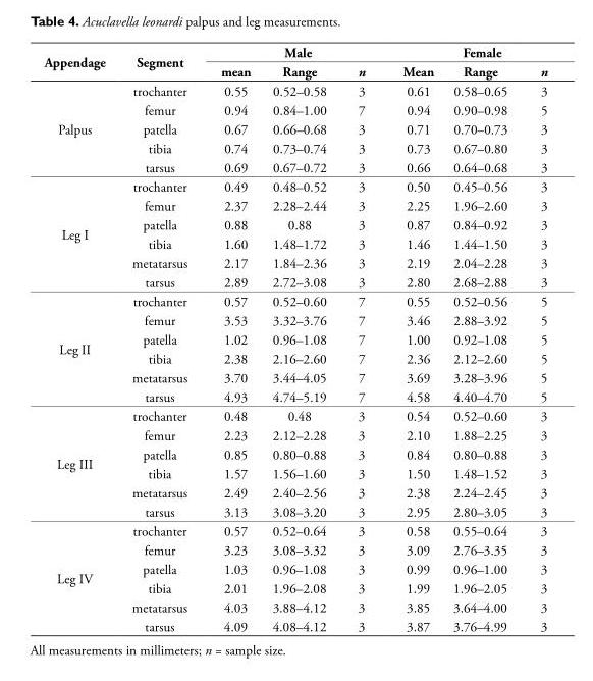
<table><thead><tr><td rowspan="2">Appendage</td><td rowspan="2">Segment</td><td colspan="3">Male</td><td colspan="3">Female</td></tr><tr><td>mean</td><td>Range</td><td>n</td><td>Mean</td><td>Range</td><td>n</td></tr></thead><tbody><tr><td rowspan="5">Palpus</td><td>trochanter</td><td>0.55</td><td>0.52–0.58</td><td>3</td><td>0.61</td><td>0.58–0.65</td><td>3</td></tr><tr><td>femur</td><td>0.94</td><td>0.84–1.00</td><td>7</td><td>0.94</td><td>0.90–0.98</td><td>5</td></tr><tr><td>patella</td><td>0.67</td><td>0.66–0.68</td><td>3</td><td>0.71</td><td>0.70–0.73</td><td>3</td></tr><tr><td>tibia</td><td>0.74</td><td>0.73–0.74</td><td>3</td><td>0.73</td><td>0.67–0.80</td><td>3</td></tr><tr><td>tarsus</td><td>0.69</td><td>0.67–0.72</td><td>3</td><td>0.66</td><td>0.64–0.68</td><td>3</td></tr><tr><td rowspan="6">Leg I</td><td>trochanter</td><td>0.49</td><td>0.48–0.52</td><td>3</td><td>0.50</td><td>0.45–0.56</td><td>3</td></tr><tr><td>femur</td><td>2.37</td><td>2.28–2.44</td><td>3</td><td>2.25</td><td>1.96–2.60</td><td>3</td></tr><tr><td>patella</td><td>0.88</td><td>0.88</td><td>3</td><td>0.87</td><td>0.84–0.92</td><td>3</td></tr><tr><td>tibia</td><td>1.60</td><td>1.48–1.72</td><td>3</td><td>1.46</td><td>1.44–1.50</td><td>3</td></tr><tr><td>metatarsus</td><td>2.17</td><td>1.84–2.36</td><td>3</td><td>2.19</td><td>2.04–2.28</td><td>3</td></tr><tr><td>tarsus</td><td>2.89</td><td>2.72–3.08</td><td>3</td><td>2.80</td><td>2.68–2.88</td><td>3</td></tr><tr><td rowspan="6">Leg II</td><td>trochanter</td><td>0.57</td><td>0.52–0.60</td><td>7</td><td>0.55</td><td>0.52–0.56</td><td>5</td></tr><tr><td>femur</td><td>3.53</td><td>3.32–3.76</td><td>7</td><td>3.46</td><td>2.88–3.92</td><td>5</td></tr><tr><td>patella</td><td>1.02</td><td>0.96–1.08</td><td>7</td><td>1.00</td><td>0.92–1.08</td><td>5</td></tr><tr><td>tibia</td><td>2.38</td><td>2.16–2.60</td><td>7</td><td>2.36</td><td>2.12–2.60</td><td>5</td></tr><tr><td>metatarsus</td><td>3.70</td><td>3.44–4.05</td><td>7</td><td>3.69</td><td>3.28–3.96</td><td>5</td></tr><tr><td>tarsus</td><td>4.93</td><td>4.74–5.19</td><td>7</td><td>4.58</td><td>4.40–4.70</td><td>5</td></tr><tr><td rowspan="6">Leg III</td><td>trochanter</td><td>0.48</td><td>0.48</td><td>3</td><td>0.54</td><td>0.52–0.60</td><td>3</td></tr><tr><td>femur</td><td>2.23</td><td>2.12–2.28</td><td>3</td><td>2.10</td><td>1.88–2.25</td><td>3</td></tr><tr><td>patella</td><td>0.85</td><td>0.80–0.88</td><td>3</td><td>0.84</td><td>0.80–0.88</td><td>3</td></tr><tr><td>tibia</td><td>1.57</td><td>1.56–1.60</td><td>3</td><td>1.50</td><td>1.48–1.52</td><td>3</td></tr><tr><td>metatarsus</td><td>2.49</td><td>2.40–2.56</td><td>3</td><td>2.38</td><td>2.24–2.45</td><td>3</td></tr><tr><td>tarsus</td><td>3.13</td><td>3.08–3.20</td><td>3</td><td>2.95</td><td>2.80–3.05</td><td>3</td></tr><tr><td rowspan="6">Leg IV</td><td>trochanter</td><td>0.57</td><td>0.52–0.64</td><td>3</td><td>0.58</td><td>0.55–0.64</td><td>3</td></tr><tr><td>femur</td><td>3.23</td><td>3.08–3.32</td><td>3</td><td>3.09</td><td>2.76–3.35</td><td>3</td></tr><tr><td>patella</td><td>1.03</td><td>0.96–1.08</td><td>3</td><td>0.99</td><td>0.96–1.00</td><td>3</td></tr><tr><td>tibia</td><td>2.01</td><td>1.96–2.08</td><td>3</td><td>1.99</td><td>1.96–2.05</td><td>3</td></tr><tr><td>metatarsus</td><td>4.03</td><td>3.88–4.12</td><td>3</td><td>3.85</td><td>3.64–4.00</td><td>3</td></tr><tr><td>tarsus</td><td>4.09</td><td>4.08–4.12</td><td>3</td><td>3.87</td><td>3.76–4.99</td><td>3</td></tr></tbody></table>